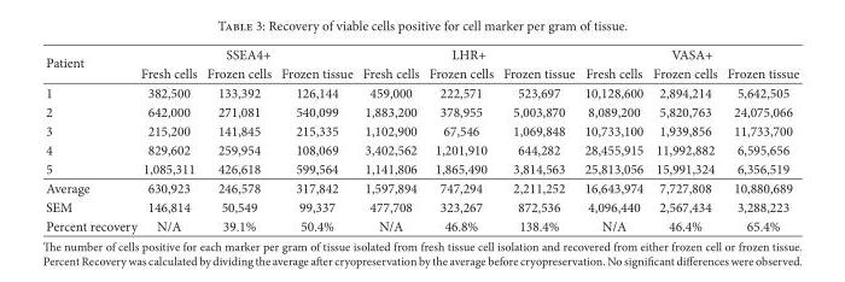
<table><thead><tr><td rowspan="2">Patient</td><td colspan="3">SSEA4+</td><td colspan="3">LHR+</td><td colspan="3">VASA+</td></tr><tr><td>Fresh cells</td><td>Frozen cells</td><td>Frozen tissue</td><td>Fresh cells</td><td>Frozen cells</td><td>Frozen tissue</td><td>Fresh cells</td><td>Frozen cells</td><td>Frozen tissue</td></tr></thead><tbody><tr><td>1</td><td>382,500</td><td>133,392</td><td>126,144</td><td>459,000</td><td>222,571</td><td>523,697</td><td>10,128,600</td><td>2,894,214</td><td>5,642,505</td></tr><tr><td>2</td><td>642,000</td><td>271,081</td><td>540,099</td><td>1,883,200</td><td>378,955</td><td>5,003,870</td><td>8,089,200</td><td>5,820,763</td><td>24,075,066</td></tr><tr><td>3</td><td>215,200</td><td>141,845</td><td>215,335</td><td>1,102,900</td><td>67,546</td><td>1,069,848</td><td>10,733,100</td><td>1,939,856</td><td>11,733,700</td></tr><tr><td>4</td><td>829,602</td><td>259,954</td><td>108,069</td><td>3,402,562</td><td>1,201,910</td><td>644,282</td><td>28,455,915</td><td>11,992,882</td><td>6,595,656</td></tr><tr><td>5</td><td>1,085,311</td><td>426,618</td><td>599,564</td><td>1,141,806</td><td>1,865,490</td><td>3,814,563</td><td>25,813,056</td><td>15,991,324</td><td>6,356,519</td></tr><tr><td>Average</td><td>630,923</td><td>246,578</td><td>317,842</td><td>1,597,894</td><td>747,294</td><td>2,211,252</td><td>16,643,974</td><td>7,727,808</td><td>10,880,689</td></tr><tr><td>SEM</td><td>146,814</td><td>50,549</td><td>99,337</td><td>477,708</td><td>323,267</td><td>872,536</td><td>4,096,440</td><td>2,567,434</td><td>3,288,223</td></tr><tr><td>Percent recovery</td><td>N/A</td><td>39.1%</td><td>50.4%</td><td>N/A</td><td>46.8%</td><td>138.4%</td><td>N/A</td><td>46.4%</td><td>65.4%</td></tr></tbody></table>